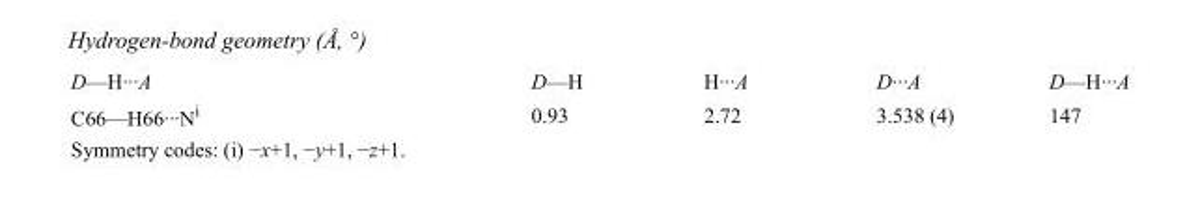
<table><tbody><tr><td>D—H···A</td><td>D—H</td><td>H···A</td><td>D···A</td><td>D—H···A</td></tr><tr><td>C66—H66···N<sup>i</sup></td><td>0.93</td><td>2.72</td><td>3.538 (4)</td><td>147</td></tr></tbody></table>